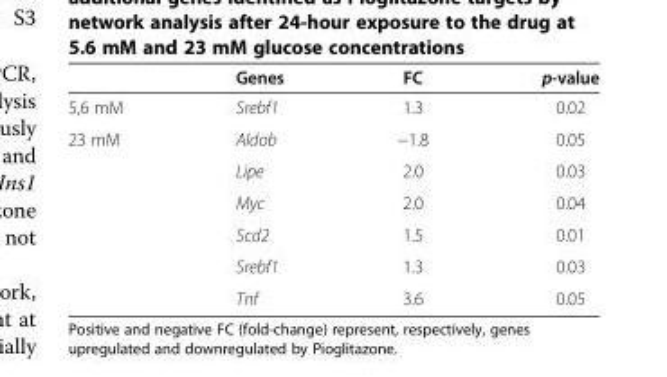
<table><thead><tr><td></td><td>Genes</td><td>FC</td><td>p-value</td></tr></thead><tbody><tr><td>5,6 mM</td><td>Srebf1</td><td>1.3</td><td>0.02</td></tr><tr><td rowspan="6">23 mM</td><td>Aldob</td><td>−1.8</td><td>0.05</td></tr><tr><td>Lipe</td><td>2.0</td><td>0.03</td></tr><tr><td>Myc</td><td>2.0</td><td>0.04</td></tr><tr><td>Scd2</td><td>1.5</td><td>0.01</td></tr><tr><td>Srebf1</td><td>1.3</td><td>0.03</td></tr><tr><td>Tnf</td><td>3.6</td><td>0.05</td></tr></tbody></table>